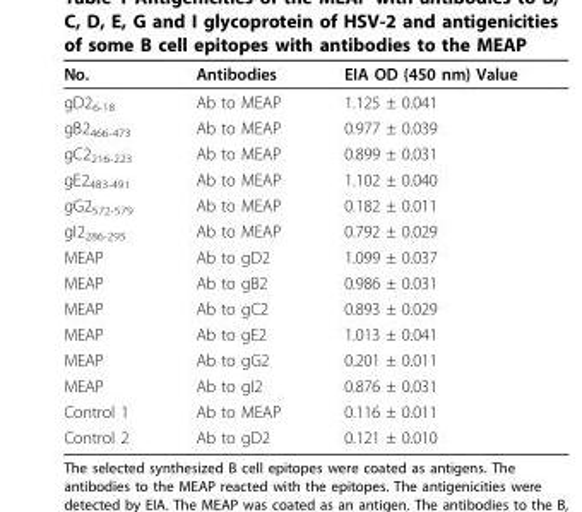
<table><thead><tr><td>No.</td><td>Antibodies</td><td>EIA OD (450 nm) Value</td></tr></thead><tbody><tr><td>gD2<sub>6-18</sub></td><td>Ab to MEAP</td><td>1.125 ± 0.041</td></tr><tr><td>gB2<sub>466-473</sub></td><td>Ab to MEAP</td><td>0.977 ± 0.039</td></tr><tr><td>gC2<sub>216-223</sub></td><td>Ab to MEAP</td><td>0.899 ± 0.031</td></tr><tr><td>gE2<sub>483-491</sub></td><td>Ab to MEAP</td><td>1.102 ± 0.040</td></tr><tr><td>gG2<sub>572-579</sub></td><td>Ab to MEAP</td><td>0.182 ± 0.011</td></tr><tr><td>gI2<sub>286-295</sub></td><td>Ab to MEAP</td><td>0.792 ± 0.029</td></tr><tr><td>MEAP</td><td>Ab to gD2</td><td>1.099 ± 0.037</td></tr><tr><td>MEAP</td><td>Ab to gB2</td><td>0.986 ± 0.031</td></tr><tr><td>MEAP</td><td>Ab to gC2</td><td>0.893 ± 0.029</td></tr><tr><td>MEAP</td><td>Ab to gE2</td><td>1.013 ± 0.041</td></tr><tr><td>MEAP</td><td>Ab to gG2</td><td>0.201 ± 0.011</td></tr><tr><td>MEAP</td><td>Ab to gI2</td><td>0.876 ± 0.031</td></tr><tr><td>Control 1</td><td>Ab to MEAP</td><td>0.116 ± 0.011</td></tr><tr><td>Control 2</td><td>Ab to gD2</td><td>0.121 ± 0.010</td></tr></tbody></table>